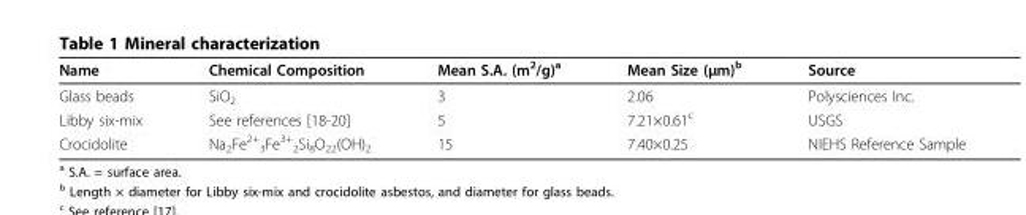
<table><thead><tr><td>Name</td><td>Chemical Composition</td><td>Mean S.A. (m<sup>2</sup>/g)<sup>a</sup></td><td>Mean Size (μm)<sup>b</sup></td><td>Source</td></tr></thead><tbody><tr><td>Glass beads</td><td>SiO<sub>2</sub></td><td>3</td><td>2.06</td><td>Polysciences Inc.</td></tr><tr><td>Libby six-mix</td><td>See references [18-20]</td><td>5</td><td>7.21×0.61<sup>c</sup></td><td>USGS</td></tr><tr><td>Crocidolite</td><td>Na<sub>2</sub>Fe<sup>2+</sup> <sub>3</sub>Fe<sup>3+</sup> <sub>2</sub>Si<sub>8</sub>O<sub>22</sub>(OH)<sub>2</sub></td><td>15</td><td>7.40×0.25</td><td>NIEHS Reference Sample</td></tr></tbody></table>